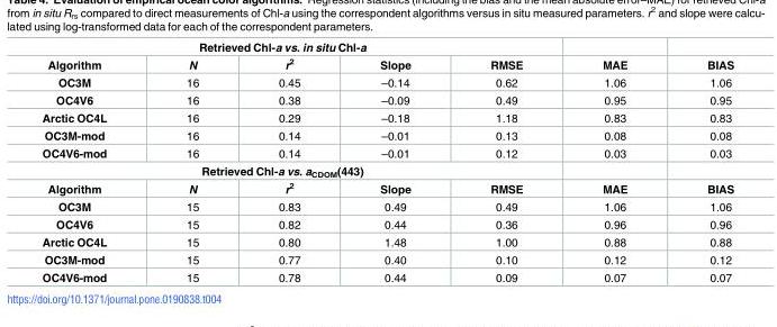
<table><tbody><tr><td colspan="7">Retrieved Chl-a vs. in situ Chl-a</td></tr><tr><td>Algorithm</td><td>N</td><td>r<sup>2</sup></td><td>Slope</td><td>RMSE</td><td>MAE</td><td>BIAS</td></tr><tr><td>OC3M</td><td>16</td><td>0.45</td><td>–0.14</td><td>0.62</td><td>1.06</td><td>1.06</td></tr><tr><td>OC4V6</td><td>16</td><td>0.38</td><td>–0.09</td><td>0.49</td><td>0.95</td><td>0.95</td></tr><tr><td>Arctic OC4L</td><td>16</td><td>0.29</td><td>–0.18</td><td>1.18</td><td>0.83</td><td>0.83</td></tr><tr><td>OC3M-mod</td><td>16</td><td>0.14</td><td>–0.01</td><td>0.13</td><td>0.08</td><td>0.08</td></tr><tr><td>OC4V6-mod</td><td>16</td><td>0.14</td><td>–0.01</td><td>0.12</td><td>0.03</td><td>0.03</td></tr><tr><td colspan="7">Retrieved Chl-a vs. a<sub>CDOM</sub>(443)</td></tr><tr><td>Algorithm</td><td>N</td><td>r<sup>2</sup></td><td>Slope</td><td>RMSE</td><td>MAE</td><td>BIAS</td></tr><tr><td>OC3M</td><td>15</td><td>0.83</td><td>0.49</td><td>0.49</td><td>1.06</td><td>1.06</td></tr><tr><td>OC4V6</td><td>15</td><td>0.82</td><td>0.44</td><td>0.36</td><td>0.96</td><td>0.96</td></tr><tr><td>Arctic OC4L</td><td>15</td><td>0.80</td><td>1.48</td><td>1.00</td><td>0.88</td><td>0.88</td></tr><tr><td>OC3M-mod</td><td>15</td><td>0.77</td><td>0.40</td><td>0.10</td><td>0.12</td><td>0.12</td></tr><tr><td>OC4V6-mod</td><td>15</td><td>0.78</td><td>0.44</td><td>0.09</td><td>0.07</td><td>0.07</td></tr></tbody></table>